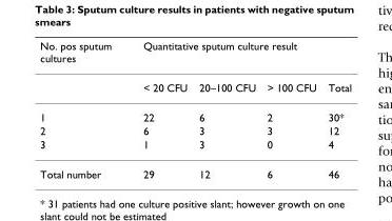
<table><thead><tr><td rowspan="2">No. pos sputum cultures</td><td colspan="3">Quantitative sputum culture result</td><td rowspan="2">Total</td></tr><tr><td>&lt; 20 CFU</td><td>20–100 CFU</td><td>&gt; 100 CFU</td></tr></thead><tbody><tr><td>1</td><td>22</td><td>6</td><td>2</td><td>30*</td></tr><tr><td>2</td><td>6</td><td>3</td><td>3</td><td>12</td></tr><tr><td>3</td><td>1</td><td>3</td><td>0</td><td>4</td></tr><tr><td>Total number</td><td>29</td><td>12</td><td>6</td><td>46</td></tr></tbody></table>